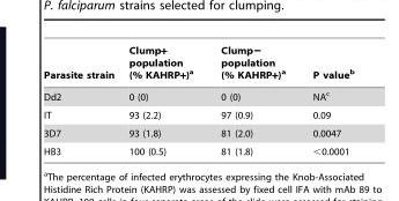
<table><thead><tr><td>Parasite strain</td><td>Clump+ population (% KAHRP+)<sup>a</sup></td><td>Clump− population (% KAHRP+)<sup>a</sup></td><td>P value<sup>b</sup></td></tr></thead><tbody><tr><td>Dd2</td><td>0 (0)</td><td>0 (0)</td><td>NA<sup>c</sup></td></tr><tr><td>IT</td><td>93 (2.2)</td><td>97 (0.9)</td><td>0.09</td></tr><tr><td>3D7</td><td>93 (1.8)</td><td>81 (2.0)</td><td>0.0047</td></tr><tr><td>HB3</td><td>100 (0.5)</td><td>81 (1.8)</td><td>&lt;0.0001</td></tr></tbody></table>